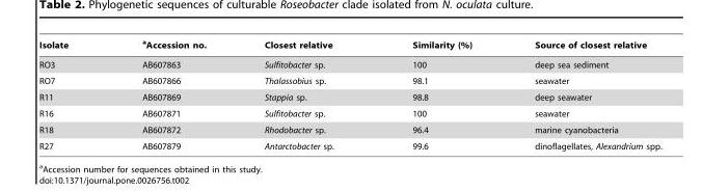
<table><thead><tr><td>Isolate</td><td>aAccession no.</td><td>Closest relative</td><td>Similarity (%)</td><td>Source of closest relative</td></tr></thead><tbody><tr><td>RO3</td><td>AB607863</td><td>Sulfitobacter sp.</td><td>100</td><td>deep sea sediment</td></tr><tr><td>RO7</td><td>AB607866</td><td>Thalassobius sp.</td><td>98.1</td><td>seawater</td></tr><tr><td>R11</td><td>AB607869</td><td>Stappia sp.</td><td>98.8</td><td>deep seawater</td></tr><tr><td>R16</td><td>AB607871</td><td>Sulfitobacter sp.</td><td>100</td><td>seawater</td></tr><tr><td>R18</td><td>AB607872</td><td>Rhodobacter sp.</td><td>96.4</td><td>marine cyanobacteria</td></tr><tr><td>R27</td><td>AB607879</td><td>Antarctobacter sp.</td><td>99.6</td><td>dinoflagellates, Alexandrium spp.</td></tr></tbody></table>